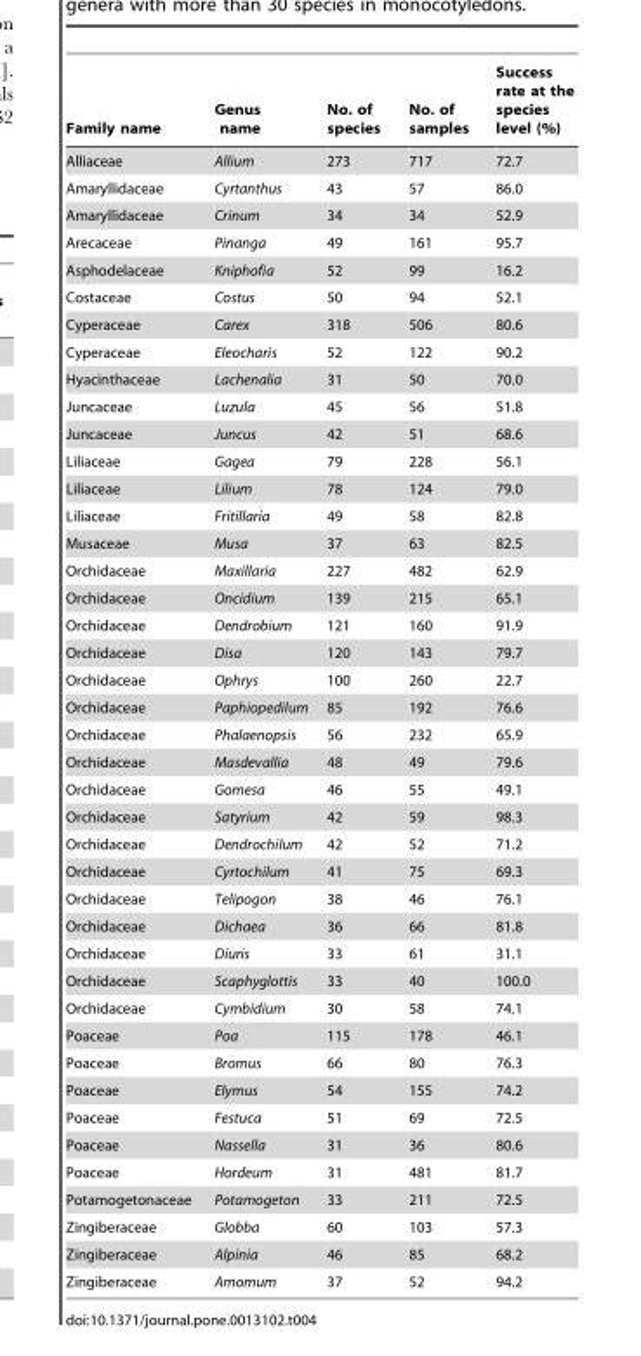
<table><thead><tr><td>Family name</td><td>Genus name</td><td>No. of species</td><td>No. of samples</td><td>Success rate at the species level (%)</td></tr></thead><tbody><tr><td>Alliaceae</td><td>Allium</td><td>273</td><td>717</td><td>72.7</td></tr><tr><td>Amaryllidaceae</td><td>Cyrtanthus</td><td>43</td><td>57</td><td>86.0</td></tr><tr><td>Amaryllidaceae</td><td>Crinum</td><td>34</td><td>34</td><td>52.9</td></tr><tr><td>Arecaceae</td><td>Pinanga</td><td>49</td><td>161</td><td>95.7</td></tr><tr><td>Asphodelaceae</td><td>Kniphofia</td><td>52</td><td>99</td><td>16.2</td></tr><tr><td>Costaceae</td><td>Costus</td><td>50</td><td>94</td><td>52.1</td></tr><tr><td>Cyperaceae</td><td>Carex</td><td>318</td><td>506</td><td>80.6</td></tr><tr><td>Cyperaceae</td><td>Eleocharis</td><td>52</td><td>122</td><td>90.2</td></tr><tr><td>Hyacinthaceae</td><td>Lachenalia</td><td>31</td><td>50</td><td>70.0</td></tr><tr><td>Juncaceae</td><td>Luzula</td><td>45</td><td>56</td><td>51.8</td></tr><tr><td>Juncaceae</td><td>Juncus</td><td>42</td><td>51</td><td>68.6</td></tr><tr><td>Liliaceae</td><td>Gagea</td><td>79</td><td>228</td><td>56.1</td></tr><tr><td>Liliaceae</td><td>Lilium</td><td>78</td><td>124</td><td>79.0</td></tr><tr><td>Liliaceae</td><td>Fritillaria</td><td>49</td><td>58</td><td>82.8</td></tr><tr><td>Musaceae</td><td>Musa</td><td>37</td><td>63</td><td>82.5</td></tr><tr><td>Orchidaceae</td><td>Maxillaria</td><td>227</td><td>482</td><td>62.9</td></tr><tr><td>Orchidaceae</td><td>Oncidium</td><td>139</td><td>215</td><td>65.1</td></tr><tr><td>Orchidaceae</td><td>Dendrobium</td><td>121</td><td>160</td><td>91.9</td></tr><tr><td>Orchidaceae</td><td>Disa</td><td>120</td><td>143</td><td>79.7</td></tr><tr><td>Orchidaceae</td><td>Ophrys</td><td>100</td><td>260</td><td>22.7</td></tr><tr><td>Orchidaceae</td><td>Paphiopedilum</td><td>85</td><td>192</td><td>76.6</td></tr><tr><td>Orchidaceae</td><td>Phalaenopsis</td><td>56</td><td>232</td><td>65.9</td></tr><tr><td>Orchidaceae</td><td>Masdevallia</td><td>48</td><td>49</td><td>79.6</td></tr><tr><td>Orchidaceae</td><td>Gomesa</td><td>46</td><td>55</td><td>49.1</td></tr><tr><td>Orchidaceae</td><td>Satyrium</td><td>42</td><td>59</td><td>98.3</td></tr><tr><td>Orchidaceae</td><td>Dendrochilum</td><td>42</td><td>52</td><td>71.2</td></tr><tr><td>Orchidaceae</td><td>Cyrtochilum</td><td>41</td><td>75</td><td>69.3</td></tr><tr><td>Orchidaceae</td><td>Telipogon</td><td>38</td><td>46</td><td>76.1</td></tr><tr><td>Orchidaceae</td><td>Dichaea</td><td>36</td><td>66</td><td>81.8</td></tr><tr><td>Orchidaceae</td><td>Diuris</td><td>33</td><td>61</td><td>31.1</td></tr><tr><td>Orchidaceae</td><td>Scaphyglottis</td><td>33</td><td>40</td><td>100.0</td></tr><tr><td>Orchidaceae</td><td>Cymbidium</td><td>30</td><td>58</td><td>74.1</td></tr><tr><td>Poaceae</td><td>Poa</td><td>115</td><td>178</td><td>46.1</td></tr><tr><td>Poaceae</td><td>Bromus</td><td>66</td><td>80</td><td>76.3</td></tr><tr><td>Poaceae</td><td>Elymus</td><td>54</td><td>155</td><td>74.2</td></tr><tr><td>Poaceae</td><td>Festuca</td><td>51</td><td>69</td><td>72.5</td></tr><tr><td>Poaceae</td><td>Nassella</td><td>31</td><td>36</td><td>80.6</td></tr><tr><td>Poaceae</td><td>Hordeum</td><td>31</td><td>481</td><td>81.7</td></tr><tr><td>Potamogetonaceae</td><td>Potamogeton</td><td>33</td><td>211</td><td>72.5</td></tr><tr><td>Zingiberaceae</td><td>Globba</td><td>60</td><td>103</td><td>57.3</td></tr><tr><td>Zingiberaceae</td><td>Alpinia</td><td>46</td><td>85</td><td>68.2</td></tr><tr><td>Zingiberaceae</td><td>Amomum</td><td>37</td><td>52</td><td>94.2</td></tr></tbody></table>